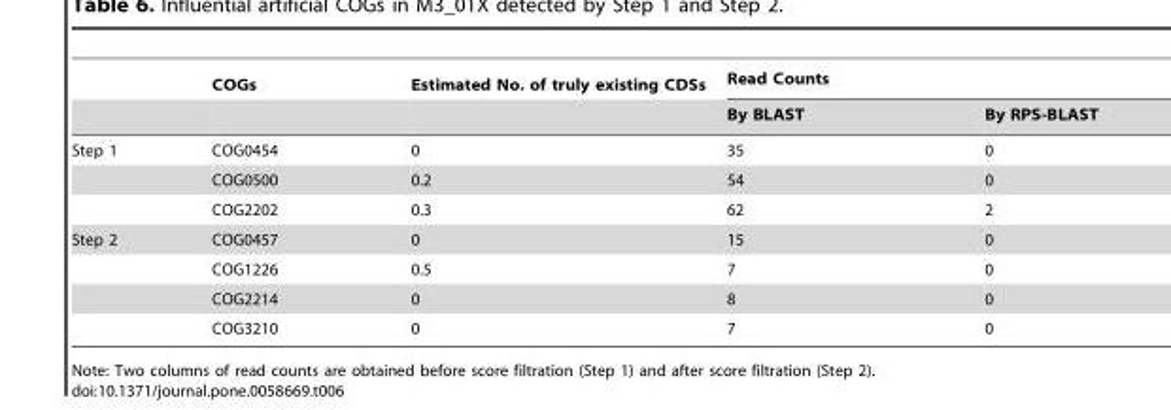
<table><thead><tr><td rowspan="2"></td><td rowspan="2">COGs</td><td rowspan="2">Estimated No. of truly existing CDSs</td><td colspan="2">Read Counts</td></tr><tr><td>By BLAST</td><td>By RPS-BLAST</td></tr></thead><tbody><tr><td rowspan="3">Step 1</td><td>COG0454</td><td>0</td><td>35</td><td>0</td></tr><tr><td>COG0500</td><td>0.2</td><td>54</td><td>0</td></tr><tr><td>COG2202</td><td>0.3</td><td>62</td><td>2</td></tr><tr><td rowspan="4">Step 2</td><td>COG0457</td><td>0</td><td>15</td><td>0</td></tr><tr><td>COG1226</td><td>0.5</td><td>7</td><td>0</td></tr><tr><td>COG2214</td><td>0</td><td>8</td><td>0</td></tr><tr><td>COG3210</td><td>0</td><td>7</td><td>0</td></tr></tbody></table>